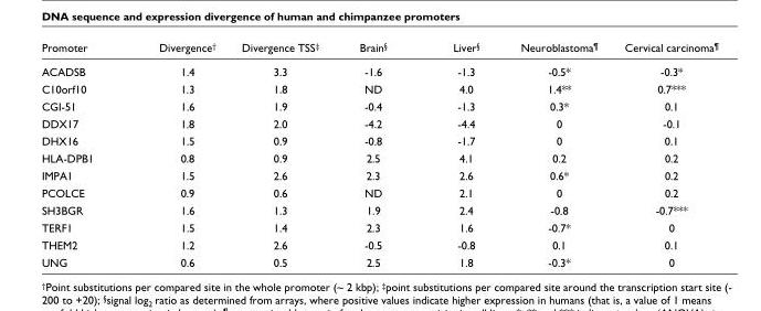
<table><thead><tr><td>Promoter</td><td>Divergence†</td><td>Divergence TSS‡</td><td>Brain§</td><td>Liver§</td><td>Neuroblastoma¶</td><td>Cervical carcinoma¶</td></tr></thead><tbody><tr><td>ACADSB</td><td>1.4</td><td>3.3</td><td>-1.6</td><td>-1.3</td><td>-0.5*</td><td>-0.3*</td></tr><tr><td>C10orf10</td><td>1.3</td><td>1.8</td><td>ND</td><td>4.0</td><td>1.4**</td><td>0.7***</td></tr><tr><td>CGI-51</td><td>1.6</td><td>1.9</td><td>-0.4</td><td>-1.3</td><td>0.3*</td><td>0.1</td></tr><tr><td>DDX17</td><td>1.8</td><td>2.0</td><td>-4.2</td><td>-4.4</td><td>0</td><td>-0.1</td></tr><tr><td>DHX16</td><td>1.5</td><td>0.9</td><td>-0.8</td><td>-1.7</td><td>0</td><td>0.1</td></tr><tr><td>HLA-DPB1</td><td>0.8</td><td>0.9</td><td>2.5</td><td>4.1</td><td>0.2</td><td>0.2</td></tr><tr><td>IMPA1</td><td>1.5</td><td>2.6</td><td>2.3</td><td>2.6</td><td>0.6*</td><td>0.2</td></tr><tr><td>PCOLCE</td><td>0.9</td><td>0.6</td><td>ND</td><td>2.1</td><td>0</td><td>0.2</td></tr><tr><td>SH3BGR</td><td>1.6</td><td>1.3</td><td>1.9</td><td>2.4</td><td>-0.8</td><td>-0.7***</td></tr><tr><td>TERF1</td><td>1.5</td><td>1.4</td><td>2.3</td><td>1.6</td><td>-0.7*</td><td>0</td></tr><tr><td>THEM2</td><td>1.2</td><td>2.6</td><td>-0.5</td><td>-0.8</td><td>0.1</td><td>0.1</td></tr><tr><td>UNG</td><td>0.6</td><td>0.5</td><td>2.5</td><td>1.8</td><td>-0.3*</td><td>0</td></tr></tbody></table>